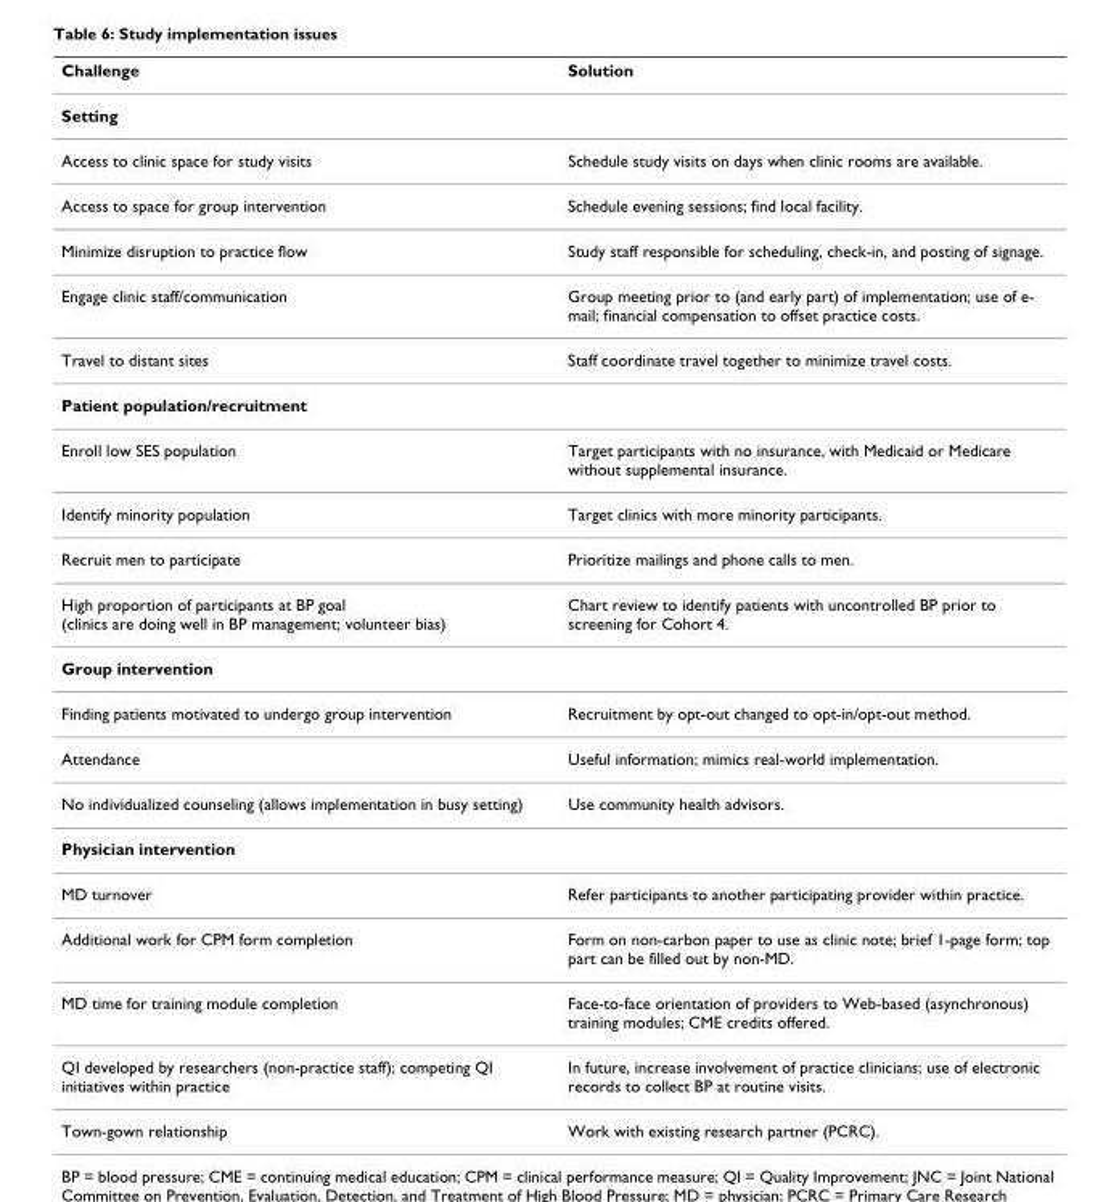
<table><thead><tr><td>Challenge</td><td>Solution</td></tr></thead><tbody><tr><td colspan="2">Setting</td></tr><tr><td>Access to clinic space for study visits</td><td>Schedule study visits on days when clinic rooms are available.</td></tr><tr><td>Access to space for group intervention</td><td>Schedule evening sessions; find local facility.</td></tr><tr><td>Minimize disruption to practice flow</td><td>Study staff responsible for scheduling, check-in, and posting of signage.</td></tr><tr><td>Engage clinic staff/communication</td><td>Group meeting prior to (and early part) of implementation; use of e- mail; financial compensation to offset practice costs.</td></tr><tr><td>Travel to distant sites</td><td>Staff coordinate travel together to minimize travel costs.</td></tr><tr><td colspan="2">Patient population/recruitment</td></tr><tr><td>Enroll low SES population</td><td>Target participants with no insurance, with Medicaid or Medicare without supplemental insurance.</td></tr><tr><td>Identify minority population</td><td>Target clinics with more minority participants.</td></tr><tr><td>Recruit men to participate</td><td>Prioritize mailings and phone calls to men.</td></tr><tr><td>High proportion of participants at BP goal (clinics are doing well in BP management; volunteer bias)</td><td>Chart review to identify patients with uncontrolled BP prior to screening for Cohort 4.</td></tr><tr><td colspan="2">Group intervention</td></tr><tr><td>Finding patients motivated to undergo group intervention</td><td>Recruitment by opt-out changed to opt-in/opt-out method.</td></tr><tr><td>Attendance</td><td>Useful information; mimics real-world implementation.</td></tr><tr><td>No individualized counseling (allows implementation in busy setting)</td><td>Use community health advisors.</td></tr><tr><td colspan="2">Physician intervention</td></tr><tr><td>MD turnover</td><td>Refer participants to another participating provider within practice.</td></tr><tr><td>Additional work for CPM form completion</td><td>Form on non-carbon paper to use as clinic note; brief 1-page form; top part can be filled out by non-MD.</td></tr><tr><td>MD time for training module completion</td><td>Face-to-face orientation of providers to Web-based (asynchronous) training modules; CME credits offered.</td></tr><tr><td>QI developed by researchers (non-practice staff); competing QI initiatives within practice</td><td>In future, increase involvement of practice clinicians; use of electronic records to collect BP at routine visits.</td></tr><tr><td>Town-gown relationship</td><td>Work with existing research partner (PCRC).</td></tr></tbody></table>